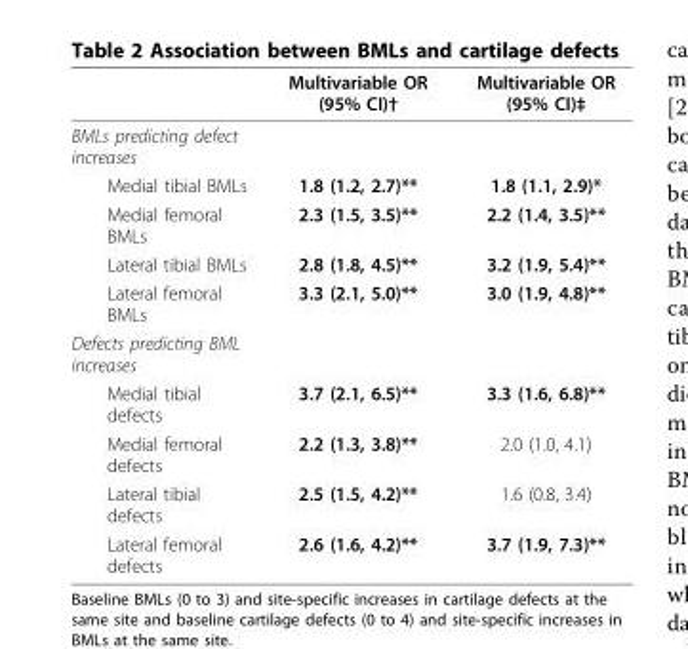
<table><thead><tr><td></td><td>Multivariable OR (95% CI)†</td><td>Multivariable OR (95% CI)‡</td></tr></thead><tbody><tr><td colspan="3">BMLs predicting defect increases</td></tr><tr><td>Medial tibial BMLs</td><td>1.8 (1.2, 2.7)**</td><td>1.8 (1.1, 2.9)*</td></tr><tr><td>Medial femoral BMLs</td><td>2.3 (1.5, 3.5)**</td><td>2.2 (1.4, 3.5)**</td></tr><tr><td>Lateral tibial BMLs</td><td>2.8 (1.8, 4.5)**</td><td>3.2 (1.9, 5.4)**</td></tr><tr><td>Lateral femoral BMLs</td><td>3.3 (2.1, 5.0)**</td><td>3.0 (1.9, 4.8)**</td></tr><tr><td colspan="3">Defects predicting BML increases</td></tr><tr><td>Medial tibial defects</td><td>3.7 (2.1, 6.5)**</td><td>3.3 (1.6, 6.8)**</td></tr><tr><td>Medial femoral defects</td><td>2.2 (1.3, 3.8)**</td><td>2.0 (1.0, 4.1)</td></tr><tr><td>Lateral tibial defects</td><td>2.5 (1.5, 4.2)**</td><td>1.6 (0.8, 3.4)</td></tr><tr><td>Lateral femoral defects</td><td>2.6 (1.6, 4.2)**</td><td>3.7 (1.9, 7.3)**</td></tr></tbody></table>